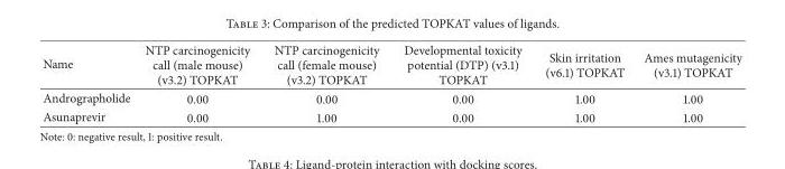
<table><thead><tr><td>Name</td><td>NTP carcinogenicity call (male mouse) (v3.2) TOPKAT</td><td>NTP carcinogenicity call (female mouse) (v3.2) TOPKAT</td><td>Developmental toxicity potential (DTP) (v3.1) TOPKAT</td><td>Skin irritation (v6.1) TOPKAT</td><td>Ames mutagenicity (v3.1) TOPKAT</td></tr></thead><tbody><tr><td>Andrographolide</td><td>0.00</td><td>0.00</td><td>0.00</td><td>1.00</td><td>1.00</td></tr><tr><td>Asunaprevir</td><td>0.00</td><td>1.00</td><td>0.00</td><td>1.00</td><td>1.00</td></tr></tbody></table>